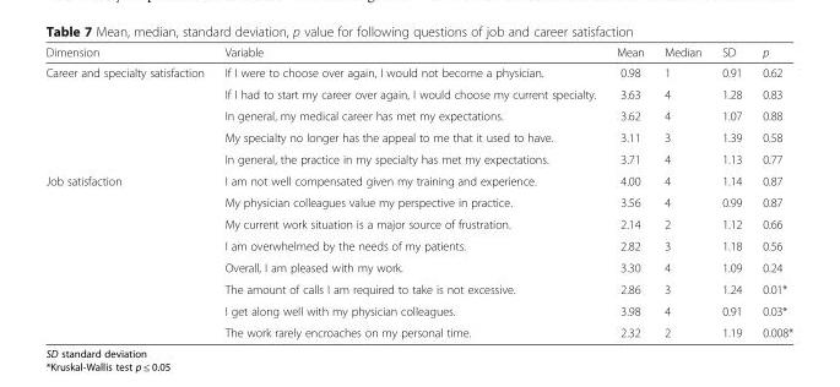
<table><thead><tr><td>Dimension</td><td>Variable</td><td>Mean</td><td>Median</td><td>SD</td><td>p</td></tr></thead><tbody><tr><td rowspan="5">Career and specialty satisfaction</td><td>If I were to choose over again, I would not become a physician.</td><td>0.98</td><td>1</td><td>0.91</td><td>0.62</td></tr><tr><td>If I had to start my career over again, I would choose my current specialty.</td><td>3.63</td><td>4</td><td>1.28</td><td>0.83</td></tr><tr><td>In general, my medical career has met my expectations.</td><td>3.62</td><td>4</td><td>1.07</td><td>0.88</td></tr><tr><td>My specialty no longer has the appeal to me that it used to have.</td><td>3.11</td><td>3</td><td>1.39</td><td>0.58</td></tr><tr><td>In general, the practice in my specialty has met my expectations.</td><td>3.71</td><td>4</td><td>1.13</td><td>0.77</td></tr><tr><td rowspan="8">Job satisfaction</td><td>I am not well compensated given my training and experience.</td><td>4.00</td><td>4</td><td>1.14</td><td>0.87</td></tr><tr><td>My physician colleagues value my perspective in practice.</td><td>3.56</td><td>4</td><td>0.99</td><td>0.87</td></tr><tr><td>My current work situation is a major source of frustration.</td><td>2.14</td><td>2</td><td>1.12</td><td>0.66</td></tr><tr><td>I am overwhelmed by the needs of my patients.</td><td>2.82</td><td>3</td><td>1.18</td><td>0.56</td></tr><tr><td>Overall, I am pleased with my work.</td><td>3.30</td><td>4</td><td>1.09</td><td>0.24</td></tr><tr><td>The amount of calls I am required to take is not excessive.</td><td>2.86</td><td>3</td><td>1.24</td><td>0.01*</td></tr><tr><td>I get along well with my physician colleagues.</td><td>3.98</td><td>4</td><td>0.91</td><td>0.03*</td></tr><tr><td>The work rarely encroaches on my personal time.</td><td>2.32</td><td>2</td><td>1.19</td><td>0.008*</td></tr></tbody></table>